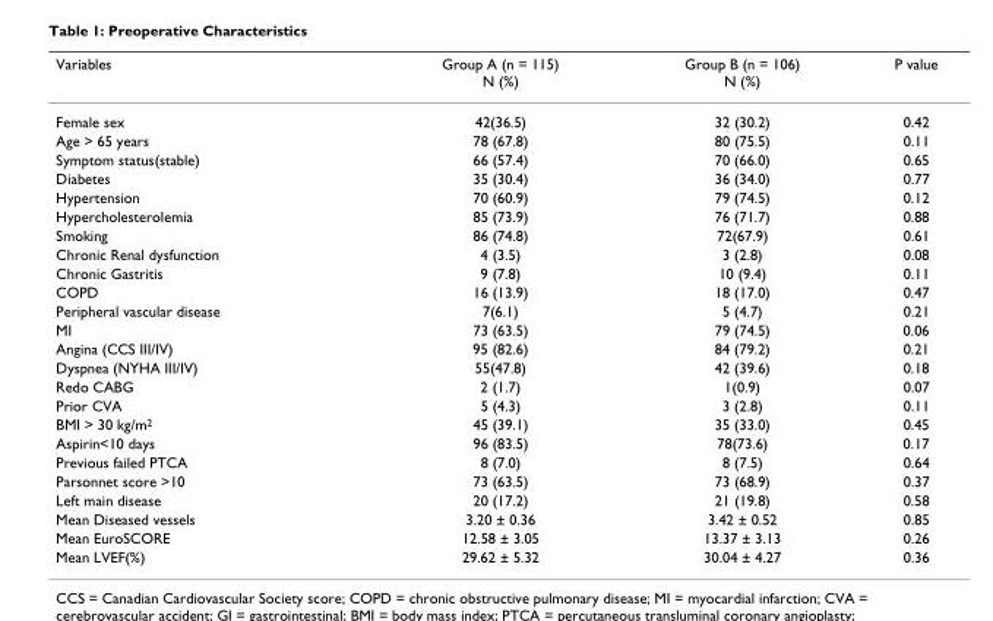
<table><thead><tr><td>Variables</td><td>Group A (n = 115) N (%)</td><td>Group B (n = 106) N (%)</td><td>P value</td></tr></thead><tbody><tr><td>Female sex</td><td>42(36.5)</td><td>32 (30.2)</td><td>0.42</td></tr><tr><td>Age &gt; 65 years</td><td>78 (67.8)</td><td>80 (75.5)</td><td>0.11</td></tr><tr><td>Symptom status(stable)</td><td>66 (57.4)</td><td>70 (66.0)</td><td>0.65</td></tr><tr><td>Diabetes</td><td>35 (30.4)</td><td>36 (34.0)</td><td>0.77</td></tr><tr><td>Hypertension</td><td>70 (60.9)</td><td>79 (74.5)</td><td>0.12</td></tr><tr><td>Hypercholesterolemia</td><td>85 (73.9)</td><td>76 (71.7)</td><td>0.88</td></tr><tr><td>Smoking</td><td>86 (74.8)</td><td>72(67.9)</td><td>0.61</td></tr><tr><td>Chronic Renal dysfunction</td><td>4 (3.5)</td><td>3 (2.8)</td><td>0.08</td></tr><tr><td>Chronic Gastritis</td><td>9 (7.8)</td><td>10 (9.4)</td><td>0.11</td></tr><tr><td>COPD</td><td>16 (13.9)</td><td>18 (17.0)</td><td>0.47</td></tr><tr><td>Peripheral vascular disease</td><td>7(6.1)</td><td>5 (4.7)</td><td>0.21</td></tr><tr><td>MI</td><td>73 (63.5)</td><td>79 (74.5)</td><td>0.06</td></tr><tr><td>Angina (CCS III/IV)</td><td>95 (82.6)</td><td>84 (79.2)</td><td>0.21</td></tr><tr><td>Dyspnea (NYHA III/IV)</td><td>55(47.8)</td><td>42 (39.6)</td><td>0.18</td></tr><tr><td>Redo CABG</td><td>2 (1.7)</td><td>1(0.9)</td><td>0.07</td></tr><tr><td>Prior CVA</td><td>5 (4.3)</td><td>3 (2.8)</td><td>0.11</td></tr><tr><td>BMI &gt; 30 kg/m<sup>2</sup></td><td>45 (39.1)</td><td>35 (33.0)</td><td>0.45</td></tr><tr><td>Aspirin&lt;10 days</td><td>96 (83.5)</td><td>78(73.6)</td><td>0.17</td></tr><tr><td>Previous failed PTCA</td><td>8 (7.0)</td><td>8 (7.5)</td><td>0.64</td></tr><tr><td>Parsonnet score &gt;10</td><td>73 (63.5)</td><td>73 (68.9)</td><td>0.37</td></tr><tr><td>Left main disease</td><td>20 (17.2)</td><td>21 (19.8)</td><td>0.58</td></tr><tr><td>Mean Diseased vessels</td><td>3.20 ± 0.36</td><td>3.42 ± 0.52</td><td>0.85</td></tr><tr><td>Mean EuroSCORE</td><td>12.58 ± 3.05</td><td>13.37 ± 3.13</td><td>0.26</td></tr><tr><td>Mean LVEF(%)</td><td>29.62 ± 5.32</td><td>30.04 ± 4.27</td><td>0.36</td></tr></tbody></table>